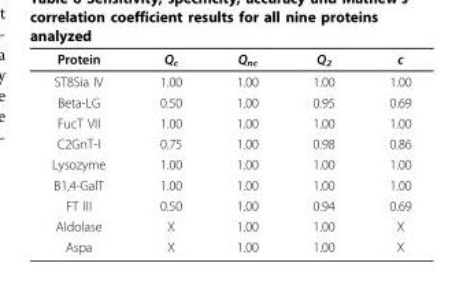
<table><thead><tr><td>Protein</td><td>Q<sub>c</sub></td><td>Q<sub>nc</sub></td><td>Q<sub>2</sub></td><td>c</td></tr></thead><tbody><tr><td>ST8Sia IV</td><td>1.00</td><td>1.00</td><td>1.00</td><td>1.00</td></tr><tr><td>Beta-LG</td><td>0.50</td><td>1.00</td><td>0.95</td><td>0.69</td></tr><tr><td>FucT VII</td><td>1.00</td><td>1.00</td><td>1.00</td><td>1.00</td></tr><tr><td>C2GnT-I</td><td>0.75</td><td>1.00</td><td>0.98</td><td>0.86</td></tr><tr><td>Lysozyme</td><td>1.00</td><td>1.00</td><td>1.00</td><td>1.00</td></tr><tr><td>B1,4-GalT</td><td>1.00</td><td>1.00</td><td>1.00</td><td>1.00</td></tr><tr><td>FT III</td><td>0.50</td><td>1.00</td><td>0.94</td><td>0.69</td></tr><tr><td>Aldolase</td><td>X</td><td>1.00</td><td>1.00</td><td>X</td></tr><tr><td>Aspa</td><td>X</td><td>1.00</td><td>1.00</td><td>X</td></tr></tbody></table>